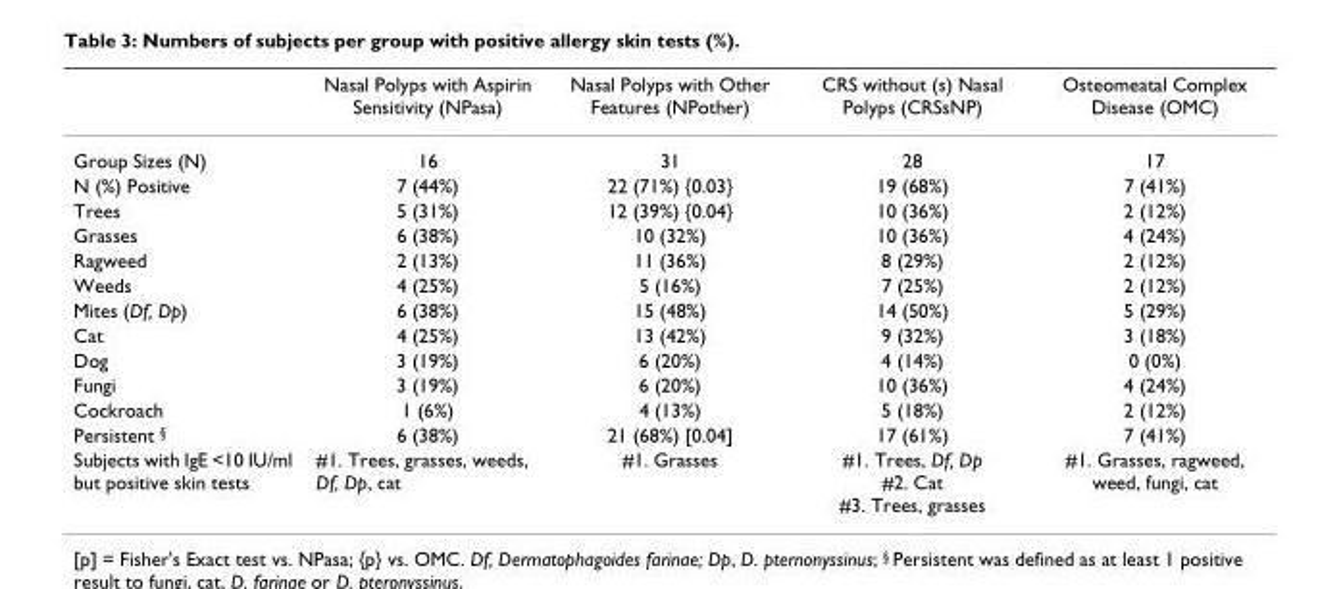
<table><thead><tr><td></td><td>Nasal Polyps with Aspirin Sensitivity (NPasa)</td><td>Nasal Polyps with Other Features (NPother)</td><td>CRS without (s) Nasal Polyps (CRSsNP)</td><td>Osteomeatal Complex Disease (OMC)</td></tr></thead><tbody><tr><td>Group Sizes (N)</td><td>16</td><td>31</td><td>28</td><td>17</td></tr><tr><td>N (%) Positive</td><td>7 (44%)</td><td>22 (71%) {0.03}</td><td>19 (68%)</td><td>7 (41%)</td></tr><tr><td>Trees</td><td>5 (31%)</td><td>12 (39%) {0.04}</td><td>10 (36%)</td><td>2 (12%)</td></tr><tr><td>Grasses</td><td>6 (38%)</td><td>10 (32%)</td><td>10 (36%)</td><td>4 (24%)</td></tr><tr><td>Ragweed</td><td>2 (13%)</td><td>11 (36%)</td><td>8 (29%)</td><td>2 (12%)</td></tr><tr><td>Weeds</td><td>4 (25%)</td><td>5 (16%)</td><td>7 (25%)</td><td>2 (12%)</td></tr><tr><td>Mites (Df, Dp)</td><td>6 (38%)</td><td>15 (48%)</td><td>14 (50%)</td><td>5 (29%)</td></tr><tr><td>Cat</td><td>4 (25%)</td><td>13 (42%)</td><td>9 (32%)</td><td>3 (18%)</td></tr><tr><td>Dog</td><td>3 (19%)</td><td>6 (20%)</td><td>4 (14%)</td><td>0 (0%)</td></tr><tr><td>Fungi</td><td>3 (19%)</td><td>6 (20%)</td><td>10 (36%)</td><td>4 (24%)</td></tr><tr><td>Cockroach</td><td>1 (6%)</td><td>4 (13%)</td><td>5 (18%)</td><td>2 (12%)</td></tr><tr><td>Persistent <sup>§</sup></td><td>6 (38%)</td><td>21 (68%) [0.04]</td><td>17 (61%)</td><td>7 (41%)</td></tr><tr><td>Subjects with IgE &lt;10 IU/ml but positive skin tests</td><td>#1. Trees, grasses, weeds, Df, Dp, cat</td><td>#1. Grasses</td><td>#1. Trees, Df, Dp #2. Cat #3. Trees, grasses</td><td>#1. Grasses, ragweed, weed, fungi, cat</td></tr></tbody></table>